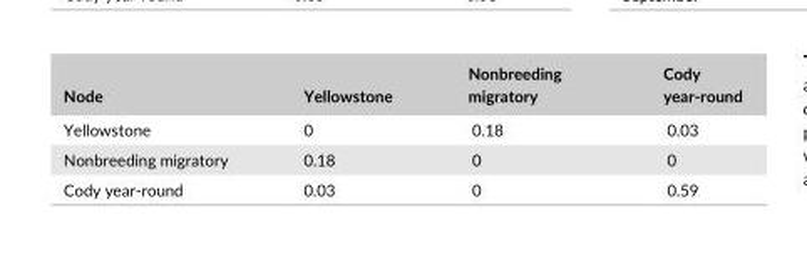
<table><thead><tr><td>Node</td><td>Yellowstone</td><td>Nonbreeding migratory</td><td>Cody year- round</td></tr></thead><tbody><tr><td>Yellowstone</td><td>0</td><td>0.18</td><td>0.03</td></tr><tr><td>Nonbreeding migratory</td><td>0.18</td><td>0</td><td>0</td></tr><tr><td>Cody year- round</td><td>0.03</td><td>0</td><td>0.59</td></tr></tbody></table>